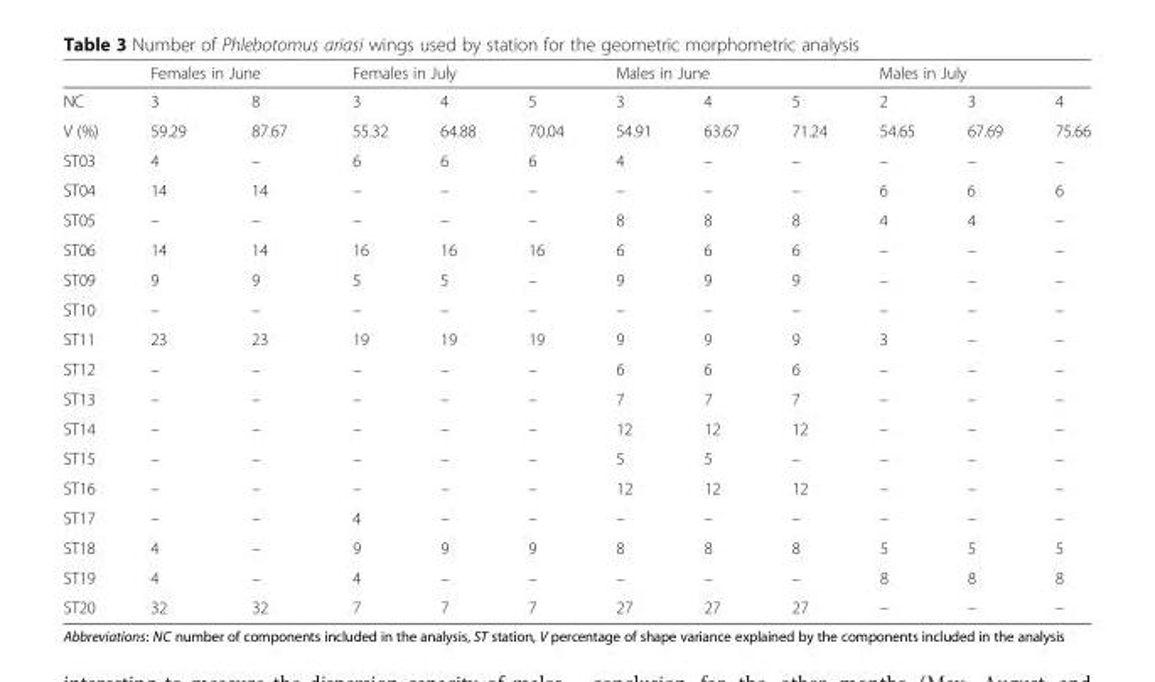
<table><thead><tr><td rowspan="2">NC</td><td colspan="2">Females in June</td><td colspan="3">Females in July</td><td colspan="3">Males in June</td><td colspan="3">Males in July</td></tr><tr><td>3</td><td>8</td><td>3</td><td>4</td><td>5</td><td>3</td><td>4</td><td>5</td><td>2</td><td>3</td><td>4</td></tr></thead><tbody><tr><td>V (%)</td><td>59.29</td><td>87.67</td><td>55.32</td><td>64.88</td><td>70.04</td><td>54.91</td><td>63.67</td><td>71.24</td><td>54.65</td><td>67.69</td><td>75.66</td></tr><tr><td>ST03</td><td>4</td><td>–</td><td>6</td><td>6</td><td>6</td><td>4</td><td>–</td><td>–</td><td>–</td><td>–</td><td>–</td></tr><tr><td>ST04</td><td>14</td><td>14</td><td>–</td><td>–</td><td>–</td><td>–</td><td>–</td><td>–</td><td>6</td><td>6</td><td>6</td></tr><tr><td>ST05</td><td>–</td><td>–</td><td>–</td><td>–</td><td>–</td><td>8</td><td>8</td><td>8</td><td>4</td><td>4</td><td>–</td></tr><tr><td>ST06</td><td>14</td><td>14</td><td>16</td><td>16</td><td>16</td><td>6</td><td>6</td><td>6</td><td>–</td><td>–</td><td>–</td></tr><tr><td>ST09</td><td>9</td><td>9</td><td>5</td><td>5</td><td>–</td><td>9</td><td>9</td><td>9</td><td>–</td><td>–</td><td>–</td></tr><tr><td>ST10</td><td>–</td><td>–</td><td>–</td><td>–</td><td>–</td><td>–</td><td>–</td><td>–</td><td>–</td><td>–</td><td>–</td></tr><tr><td>ST11</td><td>23</td><td>23</td><td>19</td><td>19</td><td>19</td><td>9</td><td>9</td><td>9</td><td>3</td><td>–</td><td>–</td></tr><tr><td>ST12</td><td>–</td><td>–</td><td>–</td><td>–</td><td>–</td><td>6</td><td>6</td><td>6</td><td>–</td><td>–</td><td>–</td></tr><tr><td>ST13</td><td>–</td><td>–</td><td>–</td><td>–</td><td>–</td><td>7</td><td>7</td><td>7</td><td>–</td><td>–</td><td>–</td></tr><tr><td>ST14</td><td>–</td><td>–</td><td>–</td><td>–</td><td>–</td><td>12</td><td>12</td><td>12</td><td>–</td><td>–</td><td>–</td></tr><tr><td>ST15</td><td>–</td><td>–</td><td>–</td><td>–</td><td>–</td><td>5</td><td>5</td><td>–</td><td>–</td><td>–</td><td>–</td></tr><tr><td>ST16</td><td>–</td><td>–</td><td>–</td><td>–</td><td>–</td><td>12</td><td>12</td><td>12</td><td>–</td><td>–</td><td>–</td></tr><tr><td>ST17</td><td>–</td><td>–</td><td>4</td><td>–</td><td>–</td><td>–</td><td>–</td><td>–</td><td>–</td><td>–</td><td>–</td></tr><tr><td>ST18</td><td>4</td><td>–</td><td>9</td><td>9</td><td>9</td><td>8</td><td>8</td><td>8</td><td>5</td><td>5</td><td>5</td></tr><tr><td>ST19</td><td>4</td><td>–</td><td>4</td><td>–</td><td>–</td><td>–</td><td>–</td><td>–</td><td>8</td><td>8</td><td>8</td></tr><tr><td>ST20</td><td>32</td><td>32</td><td>7</td><td>7</td><td>7</td><td>27</td><td>27</td><td>27</td><td>–</td><td>–</td><td>–</td></tr></tbody></table>